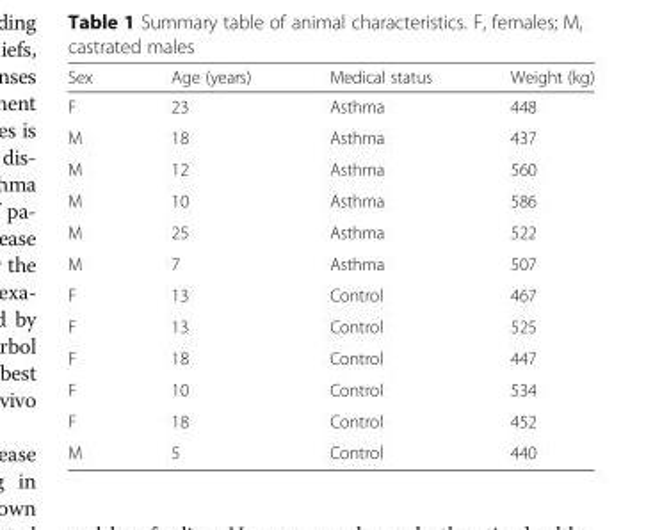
<table><thead><tr><td>Sex</td><td>Age (years)</td><td>Medical status</td><td>Weight (kg)</td></tr></thead><tbody><tr><td>F</td><td>23</td><td>Asthma</td><td>448</td></tr><tr><td>M</td><td>18</td><td>Asthma</td><td>437</td></tr><tr><td>M</td><td>12</td><td>Asthma</td><td>560</td></tr><tr><td>M</td><td>10</td><td>Asthma</td><td>586</td></tr><tr><td>M</td><td>25</td><td>Asthma</td><td>522</td></tr><tr><td>M</td><td>7</td><td>Asthma</td><td>507</td></tr><tr><td>F</td><td>13</td><td>Control</td><td>467</td></tr><tr><td>F</td><td>13</td><td>Control</td><td>525</td></tr><tr><td>F</td><td>18</td><td>Control</td><td>447</td></tr><tr><td>F</td><td>10</td><td>Control</td><td>534</td></tr><tr><td>F</td><td>18</td><td>Control</td><td>452</td></tr><tr><td>M</td><td>5</td><td>Control</td><td>440</td></tr></tbody></table>